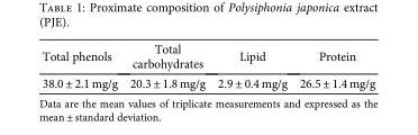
<table><thead><tr><td>Total phenols</td><td>Total carbohydrates</td><td>Lipid</td><td>Protein</td></tr></thead><tbody><tr><td>38.0 ± 2.1 mg/g</td><td>20.3 ± 1.8 mg/g</td><td>2.9 ± 0.4 mg/g</td><td>26.5 ± 1.4 mg/g</td></tr></tbody></table>